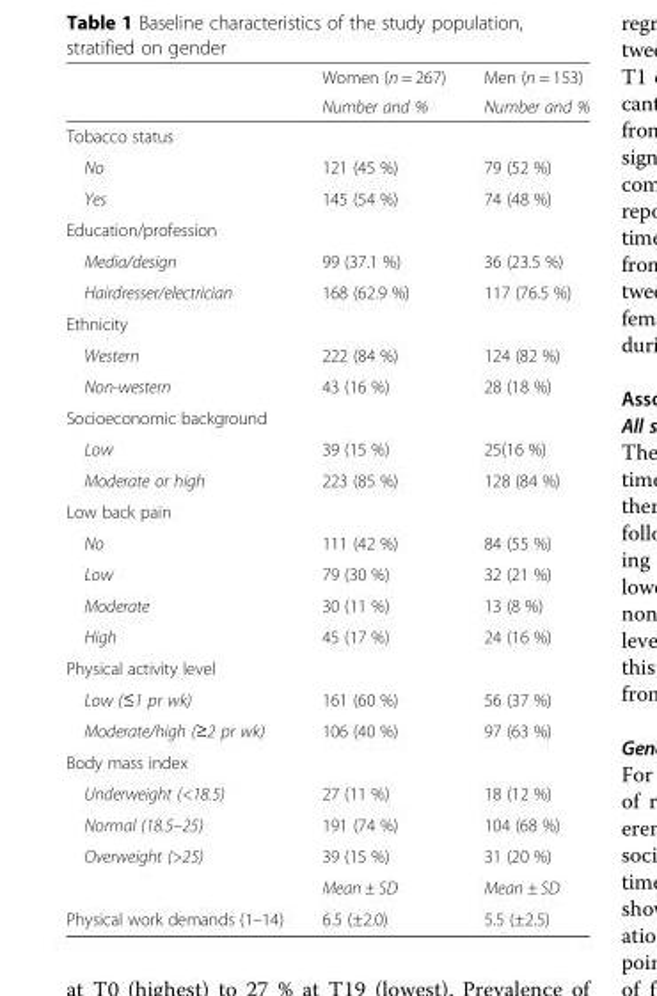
<table><thead><tr><td rowspan="2"></td><td rowspan="2">Women (n = 267) Number and %</td><td rowspan="2">Men (n = 153) Number and %</td></tr><tr></tr></thead><tbody><tr><td colspan="3">Tobacco status</td></tr><tr><td>No</td><td>121 (45 %)</td><td>79 (52 %)</td></tr><tr><td>Yes</td><td>145 (54 %)</td><td>74 (48 %)</td></tr><tr><td colspan="3">Education/profession</td></tr><tr><td>Media/design</td><td>99 (37.1 %)</td><td>36 (23.5 %)</td></tr><tr><td>Hairdresser/electrician</td><td>168 (62.9 %)</td><td>117 (76.5 %)</td></tr><tr><td colspan="3">Ethnicity</td></tr><tr><td>Western</td><td>222 (84 %)</td><td>124 (82 %)</td></tr><tr><td>Non-western</td><td>43 (16 %)</td><td>28 (18 %)</td></tr><tr><td colspan="3">Socioeconomic background</td></tr><tr><td>Low</td><td>39 (15 %)</td><td>25(16 %)</td></tr><tr><td>Moderate or high</td><td>223 (85 %)</td><td>128 (84 %)</td></tr><tr><td colspan="3">Low back pain</td></tr><tr><td>No</td><td>111 (42 %)</td><td>84 (55 %)</td></tr><tr><td>Low</td><td>79 (30 %)</td><td>32 (21 %)</td></tr><tr><td>Moderate</td><td>30 (11 %)</td><td>13 (8 %)</td></tr><tr><td>High</td><td>45 (17 %)</td><td>24 (16 %)</td></tr><tr><td colspan="3">Physical activity level</td></tr><tr><td>Low (≤1 pr wk)</td><td>161 (60 %)</td><td>56 (37 %)</td></tr><tr><td>Moderate/high (≥2 pr wk)</td><td>106 (40 %)</td><td>97 (63 %)</td></tr><tr><td colspan="3">Body mass index</td></tr><tr><td>Underweight (&lt;18.5)</td><td>27 (11 %)</td><td>18 (12 %)</td></tr><tr><td>Normal (18.5–25)</td><td>191 (74 %)</td><td>104 (68 %)</td></tr><tr><td rowspan="2">Overweight (&gt;25)</td><td>39 (15 %)</td><td>31 (20 %)</td></tr><tr><td>Mean ± SD</td><td>Mean ± SD</td></tr><tr><td>Physical work demands (1–14)</td><td>6.5 (±2.0)</td><td>5.5 (±2.5)</td></tr></tbody></table>